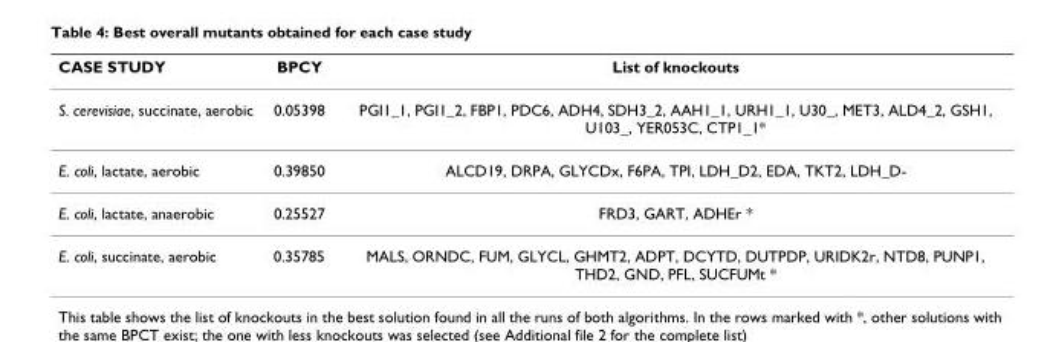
<table><thead><tr><td>CASE STUDY</td><td>BPCY</td><td>List of knockouts</td></tr></thead><tbody><tr><td>S. cerevisiae, succinate, aerobic</td><td>0.05398</td><td>PGI1_1, PGI1_2, FBP1, PDC6, ADH4, SDH3_2, AAH1_1, URH1_1, U30_, MET3, ALD4_2, GSH1, U103_, YER053C, CTP1_1*</td></tr><tr><td>E. coli, lactate, aerobic</td><td>0.39850</td><td>ALCD19, DRPA, GLYCDx, F6PA, TPI, LDH_D2, EDA, TKT2, LDH_D-</td></tr><tr><td>E. coli, lactate, anaerobic</td><td>0.25527</td><td>FRD3, GART, ADHEr *</td></tr><tr><td>E. coli, succinate, aerobic</td><td>0.35785</td><td>MALS, ORNDC, FUM, GLYCL, GHMT2, ADPT, DCYTD, DUTPDP, URIDK2r, NTD8, PUNP1, THD2, GND, PFL, SUCFUMt *</td></tr></tbody></table>